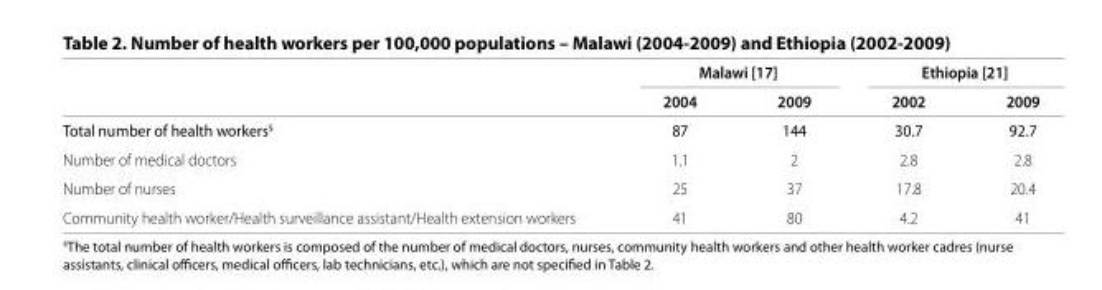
<table><thead><tr><td rowspan="2"></td><td colspan="2">Malawi [17]</td><td colspan="2">Ethiopia [21]</td></tr><tr><td>2004</td><td>2009</td><td>2002</td><td>2009</td></tr></thead><tbody><tr><td>Total number of health workers<sup>§</sup></td><td>87</td><td>144</td><td>30.7</td><td>92.7</td></tr><tr><td>Number of medical doctors</td><td>1.1</td><td>2</td><td>2.8</td><td>2.8</td></tr><tr><td>Number of nurses</td><td>25</td><td>37</td><td>17.8</td><td>20.4</td></tr><tr><td>Community health worker/Health surveillance assistant/Health extension workers</td><td>41</td><td>80</td><td>4.2</td><td>41</td></tr></tbody></table>